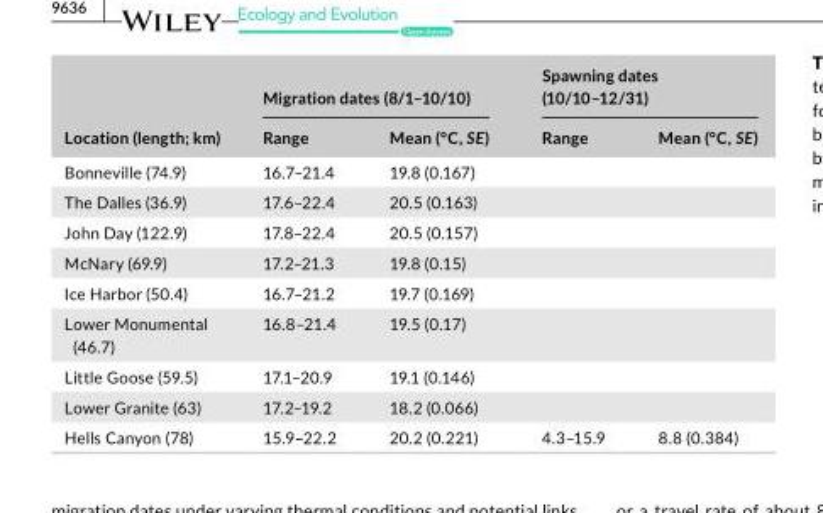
<table><thead><tr><td rowspan="2">Location (length; km)</td><td colspan="2">Migration dates (8/1–10/10)</td><td colspan="2">Spawning dates (10/10–12/31)</td></tr><tr><td>Range</td><td>Mean (°C, SE)</td><td>Range</td><td>Mean (°C, SE)</td></tr></thead><tbody><tr><td>Bonneville (74.9)</td><td>16.7–21.4</td><td>19.8 (0.167)</td><td></td><td></td></tr><tr><td>The Dalles (36.9)</td><td>17.6–22.4</td><td>20.5 (0.163)</td><td></td><td></td></tr><tr><td>John Day (122.9)</td><td>17.8–22.4</td><td>20.5 (0.157)</td><td></td><td></td></tr><tr><td>McNary (69.9)</td><td>17.2–21.3</td><td>19.8 (0.15)</td><td></td><td></td></tr><tr><td>Ice Harbor (50.4)</td><td>16.7–21.2</td><td>19.7 (0.169)</td><td></td><td></td></tr><tr><td>Lower Monumental (46.7)</td><td>16.8–21.4</td><td>19.5 (0.17)</td><td></td><td></td></tr><tr><td>Little Goose (59.5)</td><td>17.1–20.9</td><td>19.1 (0.146)</td><td></td><td></td></tr><tr><td>Lower Granite (63)</td><td>17.2–19.2</td><td>18.2 (0.066)</td><td></td><td></td></tr><tr><td>Hells Canyon (78)</td><td>15.9–22.2</td><td>20.2 (0.221)</td><td>4.3–15.9</td><td>8.8 (0.384)</td></tr></tbody></table>